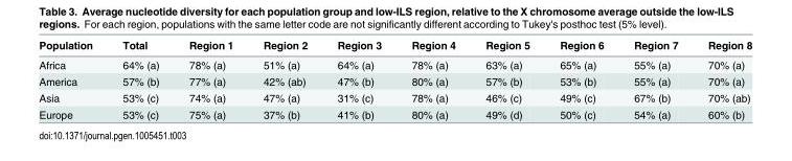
<table><thead><tr><td>Population</td><td>Total</td><td>Region 1</td><td>Region 2</td><td>Region 3</td><td>Region 4</td><td>Region 5</td><td>Region 6</td><td>Region 7</td><td>Region 8</td></tr></thead><tbody><tr><td>Africa</td><td>64% (a)</td><td>78% (a)</td><td>51% (a)</td><td>64% (a)</td><td>78% (a)</td><td>63% (a)</td><td>65% (a)</td><td>55% (a)</td><td>70% (a)</td></tr><tr><td>America</td><td>57% (b)</td><td>77% (a)</td><td>42% (ab)</td><td>47% (b)</td><td>80% (a)</td><td>57% (b)</td><td>53% (b)</td><td>55% (a)</td><td>70% (a)</td></tr><tr><td>Asia</td><td>53% (c)</td><td>74% (a)</td><td>47% (a)</td><td>31% (c)</td><td>78% (a)</td><td>46% (c)</td><td>49% (c)</td><td>67% (b)</td><td>70% (ab)</td></tr><tr><td>Europe</td><td>53% (c)</td><td>75% (a)</td><td>37% (b)</td><td>41% (b)</td><td>80% (a)</td><td>49% (d)</td><td>50% (c)</td><td>54% (a)</td><td>60% (b)</td></tr></tbody></table>